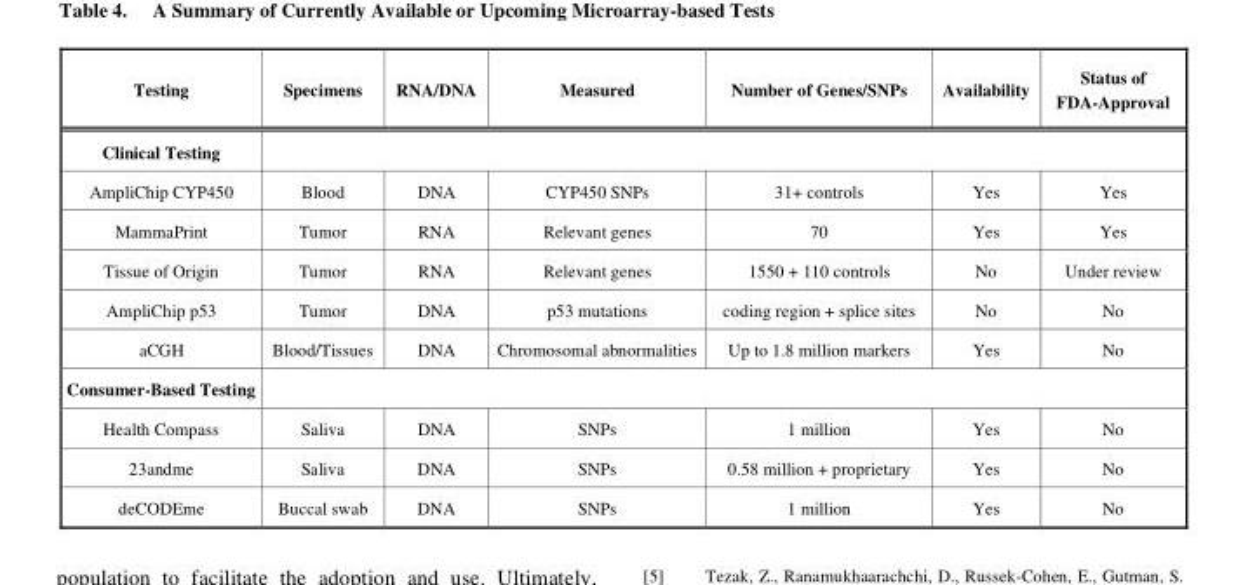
<table><thead><tr><td>Testing</td><td>Specimens</td><td>RNA/DNA</td><td>Measured</td><td>Number of Genes/SNPs</td><td>Availability</td><td>Status of FDA-Approval</td></tr></thead><tbody><tr><td colspan="7">Clinical Testing</td></tr><tr><td>AmpliChip CYP450</td><td>Blood</td><td>DNA</td><td>CYP450 SNPs</td><td>31+ controls</td><td>Yes</td><td>Yes</td></tr><tr><td>MammaPrint</td><td>Tumor</td><td>RNA</td><td>Relevant genes</td><td>70</td><td>Yes</td><td>Yes</td></tr><tr><td>Tissue of Origin</td><td>Tumor</td><td>RNA</td><td>Relevant genes</td><td>1550 + 110 controls</td><td>No</td><td>Under review</td></tr><tr><td>AmpliChip p53</td><td>Tumor</td><td>DNA</td><td>p53 mutations</td><td>coding region + splice sites</td><td>No</td><td>No</td></tr><tr><td>aCGH</td><td>Blood/Tissues</td><td>DNA</td><td>Chromosomal abnormalities</td><td>Up to 1.8 million markers</td><td>Yes</td><td>No</td></tr><tr><td colspan="7">Consumer-Based Testing</td></tr><tr><td>Health Compass</td><td>Saliva</td><td>DNA</td><td>SNPs</td><td>1 million</td><td>Yes</td><td>No</td></tr><tr><td>23andme</td><td>Saliva</td><td>DNA</td><td>SNPs</td><td>0.58 million + proprietary</td><td>Yes</td><td>No</td></tr><tr><td>deCODEme</td><td>Buccal swab</td><td>DNA</td><td>SNPs</td><td>1 million</td><td>Yes</td><td>No</td></tr></tbody></table>